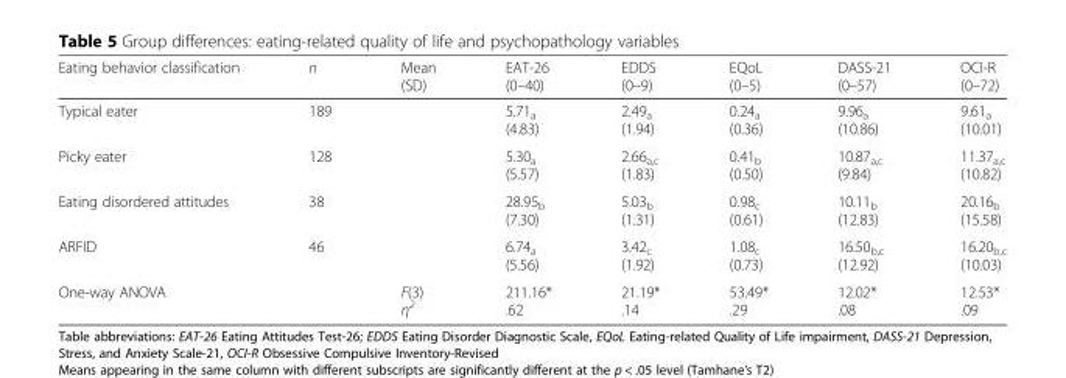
<table><thead><tr><td>Eating behavior classification</td><td>n</td><td>Mean (SD)</td><td>EAT-26 (0–40)</td><td>EDDS (0–9)</td><td>EQoL (0–5)</td><td>DASS-21 (0–57)</td><td>OCI-R (0–72)</td></tr></thead><tbody><tr><td>Typical eater</td><td>189</td><td></td><td>5.71<sub>a</sub> (4.83)</td><td>2.49<sub>a</sub> (1.94)</td><td>0.24<sub>a</sub> (0.36)</td><td>9.96<sub>a</sub> (10.86)</td><td>9.61<sub>a</sub> (10.01)</td></tr><tr><td>Picky eater</td><td>128</td><td></td><td>5.30<sub>a</sub> (5.57)</td><td>2.66<sub>a,c</sub> (1.83)</td><td>0.41<sub>b</sub> (0.50)</td><td>10.87<sub>a,c</sub> (9.84)</td><td>11.37<sub>a,c</sub> (10.82)</td></tr><tr><td>Eating disordered attitudes</td><td>38</td><td></td><td>28.95<sub>b</sub> (7.30)</td><td>5.03<sub>b</sub> (1.31)</td><td>0.98<sub>c</sub> (0.61)</td><td>10.11<sub>b</sub> (12.83)</td><td>20.16<sub>b</sub> (15.58)</td></tr><tr><td>ARFID</td><td>46</td><td></td><td>6.74<sub>a</sub> (5.56)</td><td>3.42<sub>c</sub> (1.92)</td><td>1.08<sub>c</sub> (0.73)</td><td>16.50<sub>b,c</sub> (12.92)</td><td>16.20<sub>b,c</sub> (10.03)</td></tr><tr><td>One-way ANOVA</td><td></td><td>F(3) η<sup>2</sup></td><td>211.16* .62</td><td>21.19* .14</td><td>53.49* .29</td><td>12.02* .08</td><td>12.53* .09</td></tr></tbody></table>